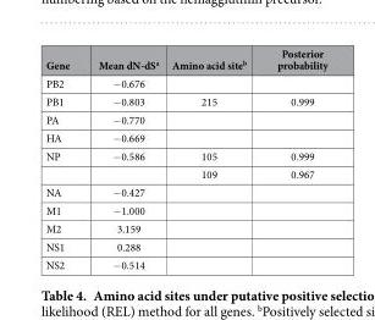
<table><thead><tr><td>Gene</td><td>Mean dN-dS<sup>a</sup></td><td>Amino acid site<sup>b</sup></td><td>Posterior probability</td></tr></thead><tbody><tr><td>PB2</td><td>− 0.676</td><td></td><td></td></tr><tr><td>PB1</td><td>− 0.803</td><td>215</td><td>0.999</td></tr><tr><td>PA</td><td>− 0.770</td><td></td><td></td></tr><tr><td>HA</td><td>− 0.669</td><td></td><td></td></tr><tr><td rowspan="2">NP</td><td>− 0.586</td><td>105</td><td>0.999</td></tr><tr><td></td><td>109</td><td>0.967</td></tr><tr><td>NA</td><td>− 0.427</td><td></td><td></td></tr><tr><td>M1</td><td>− 1.000</td><td></td><td></td></tr><tr><td>M2</td><td>3.159</td><td></td><td></td></tr><tr><td>NS1</td><td>0.288</td><td></td><td></td></tr><tr><td>NS2</td><td>− 0.514</td><td></td><td></td></tr></tbody></table>